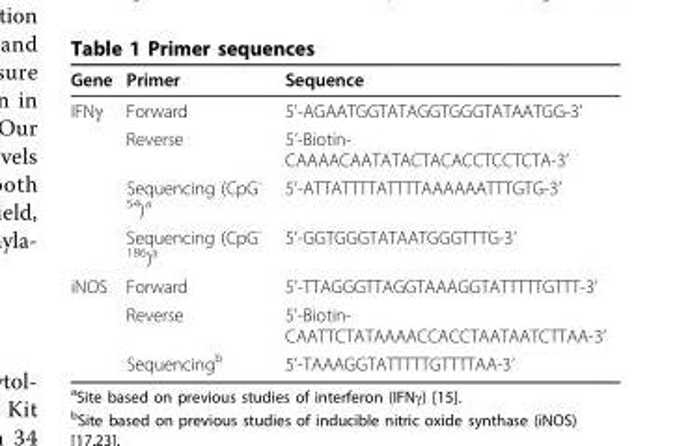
<table><thead><tr><td>Gene</td><td>Primer</td><td>Sequence</td></tr></thead><tbody><tr><td rowspan="4">IFNγ</td><td>Forward</td><td>5’-AGAATGGTATAGGTGGGTATAATGG-3’</td></tr><tr><td>Reverse</td><td>5’-Biotin- CAAAACAATATACTACACCTCCTCTA-3’</td></tr><tr><td>Sequencing (CpG<sup>- 54</sup>)<sup>a</sup></td><td>5’-ATTATTTTATTTTAAAAAATTTGTG-3’</td></tr><tr><td>Sequencing (CpG<sup>- 186</sup>)<sup>a</sup></td><td>5’-GGTGGGTATAATGGGTTTG-3’</td></tr><tr><td rowspan="3">iNOS</td><td>Forward</td><td>5’-TTAGGGTTAGGTAAAGGTATTTTTGTTT-3’</td></tr><tr><td>Reverse</td><td>5’-Biotin- CAATTCTATAAAACCACCTAATAATCTTAA-3’</td></tr><tr><td>Sequencing<sup>b</sup></td><td>5’-TAAAGGTATTTTTGTTTTAA-3’</td></tr></tbody></table>